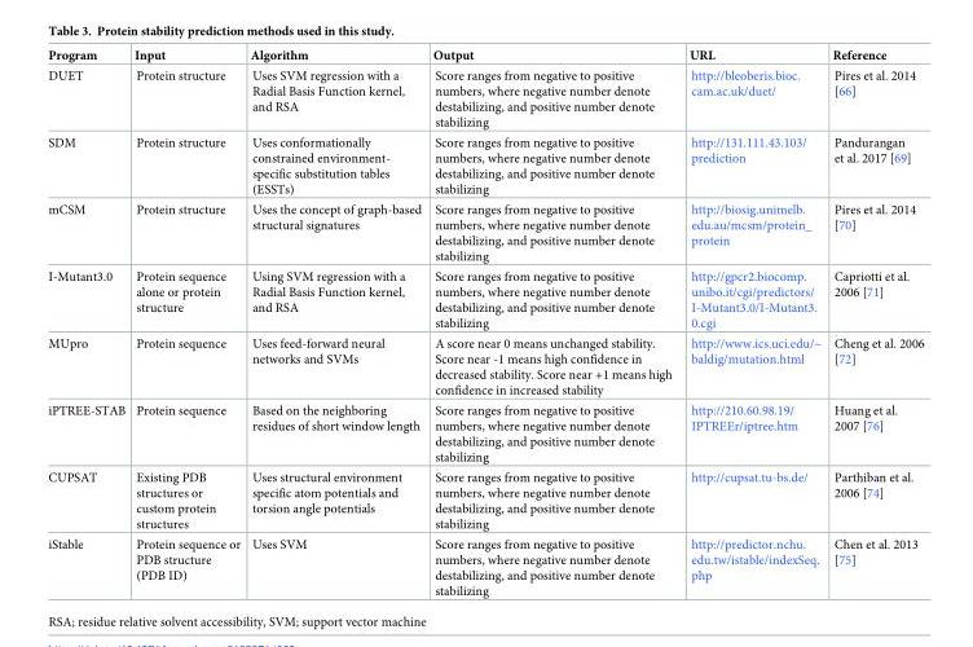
<table><thead><tr><td>Program</td><td>Input</td><td>Algorithm</td><td>Output</td><td>URL</td><td>Reference</td></tr></thead><tbody><tr><td>DUET</td><td>Protein structure</td><td>Uses SVM regression with a Radial Basis Function kernel, and RSA</td><td>Score ranges from negative to positive numbers, where negative number denote destabilizing, and positive number denote stabilizing</td><td>http://bleoberis.bioc. cam.ac.uk/duet/</td><td>Pires et al. 2014 [66]</td></tr><tr><td>SDM</td><td>Protein structure</td><td>Uses conformationally constrained environment- specific substitution tables (ESSTs)</td><td>Score ranges from negative to positive numbers, where negative number denote destabilizing, and positive number denote stabilizing</td><td>http://131.111.43.103/ prediction</td><td>Pandurangan et al. 2017 [69]</td></tr><tr><td>mCSM</td><td>Protein structure</td><td>Uses the concept of graph-based structural signatures</td><td>Score ranges from negative to positive numbers, where negative number denote destabilizing, and positive number denote stabilizing</td><td>http://biosig.unimelb. edu.au/mcsm/protein_ protein</td><td>Pires et al. 2014 [70]</td></tr><tr><td>I-Mutant3.0</td><td>Protein sequence alone or protein structure</td><td>Using SVM regression with a Radial Basis Function kernel, and RSA</td><td>Score ranges from negative to positive numbers, where negative number denote destabilizing, and positive number denote stabilizing</td><td>http://gpcr2.biocomp. unibo.it/cgi/predictors/ I-Mutant3.0/I-Mutant3. 0.cgi</td><td>Capriotti et al. 2006 [71]</td></tr><tr><td>MUpro</td><td>Protein sequence</td><td>Uses feed-forward neural networks and SVMs</td><td>A score near 0 means unchanged stability. Score near -1 means high confidence in decreased stability. Score near +1 means high confidence in increased stability</td><td>http://www.ics.uci.edu/~ baldig/mutation.html</td><td>Cheng et al. 2006 [72]</td></tr><tr><td>iPTREE-STAB</td><td>Protein sequence</td><td>Based on the neighboring residues of short window length</td><td>Score ranges from negative to positive numbers, where negative number denote destabilizing, and positive number denote stabilizing</td><td>http://210.60.98.19/ IPTREEr/iptree.htm</td><td>Huang et al. 2007 [76]</td></tr><tr><td>CUPSAT</td><td>Existing PDB structures or custom protein structures</td><td>Uses structural environment specific atom potentials and torsion angle potentials</td><td>Score ranges from negative to positive numbers, where negative number denote destabilizing, and positive number denote stabilizing</td><td>http://cupsat.tu-bs.de/</td><td>Parthiban et al. 2006 [74]</td></tr><tr><td>iStable</td><td>Protein sequence or PDB structure (PDB ID)</td><td>Uses SVM</td><td>Score ranges from negative to positive numbers, where negative number denote destabilizing, and positive number denote stabilizing</td><td>http://predictor.nchu. edu.tw/istable/indexSeq. php</td><td>Chen et al. 2013 [75]</td></tr></tbody></table>